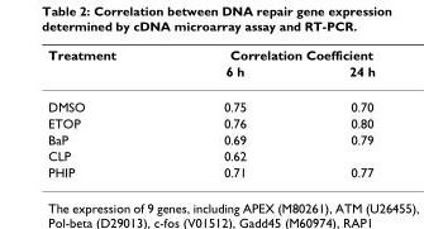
<table><thead><tr><td rowspan="2">Treatment</td><td colspan="2">Correlation Coefficient</td></tr><tr><td>6 h</td><td>24 h</td></tr></thead><tbody><tr><td>DMSO</td><td>0.75</td><td>0.70</td></tr><tr><td>ETOP</td><td>0.76</td><td>0.80</td></tr><tr><td>BaP</td><td>0.69</td><td>0.79</td></tr><tr><td>CLP</td><td>0.62</td><td></td></tr><tr><td>PHIP</td><td>0.71</td><td>0.77</td></tr></tbody></table>